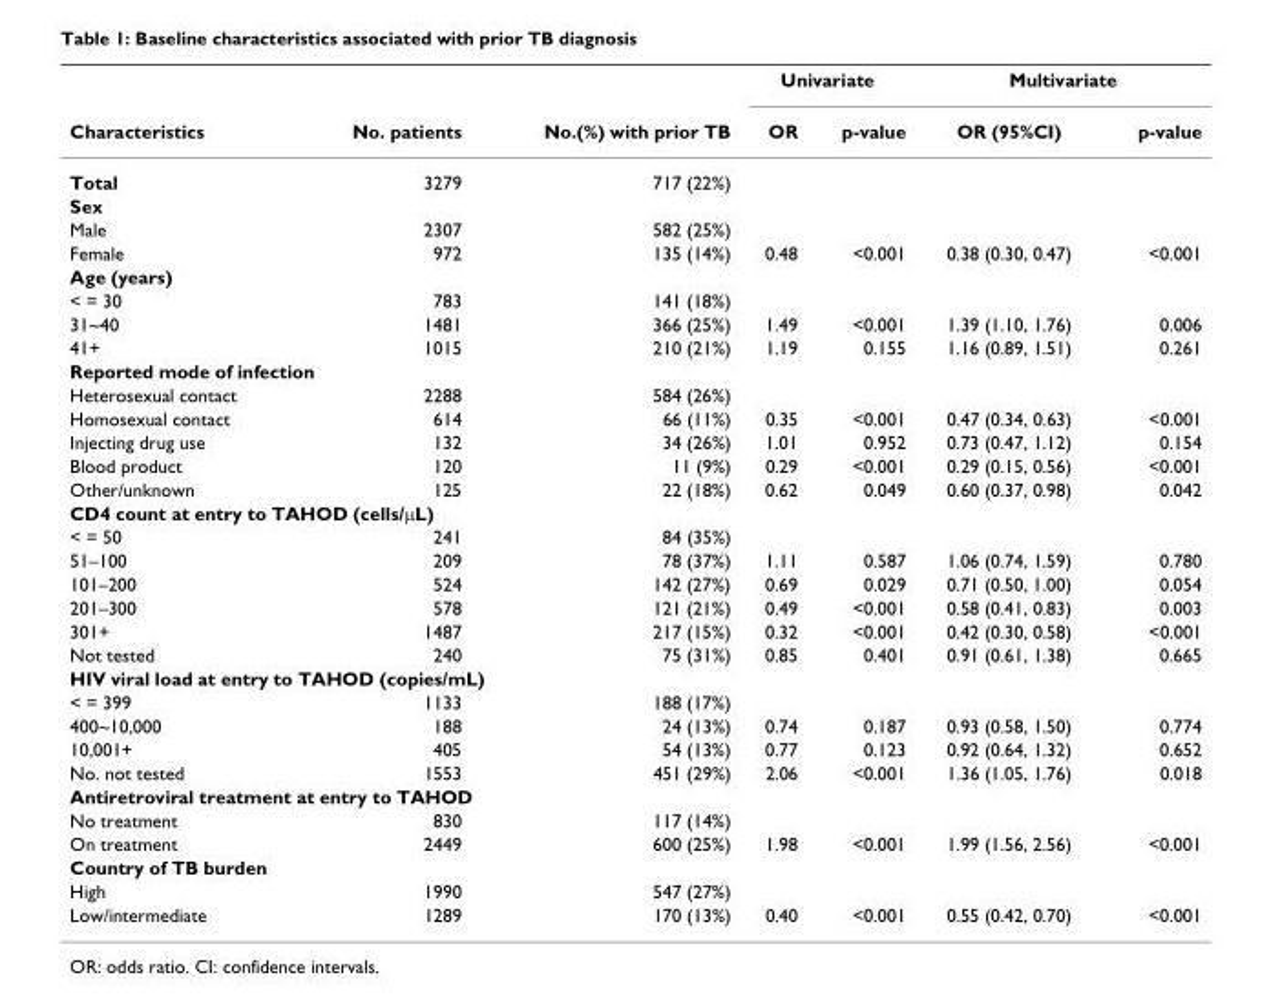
<table><thead><tr><td rowspan="2">Characteristics</td><td rowspan="2">No. patients</td><td rowspan="2">No.(%) with prior TB</td><td colspan="2">Univariate</td><td colspan="2">Multivariate</td></tr><tr><td>OR</td><td>p-value</td><td>OR (95%CI)</td><td>p-value</td></tr></thead><tbody><tr><td>Total</td><td>3279</td><td>717 (22%)</td><td></td><td></td><td></td><td></td></tr><tr><td colspan="7">Sex</td></tr><tr><td>Male</td><td>2307</td><td>582 (25%)</td><td></td><td></td><td></td><td></td></tr><tr><td>Female</td><td>972</td><td>135 (14%)</td><td>0.48</td><td>&lt;0.001</td><td>0.38 (0.30, 0.47)</td><td>&lt;0.001</td></tr><tr><td colspan="7">Age (years)</td></tr><tr><td>&lt; = 30</td><td>783</td><td>141 (18%)</td><td></td><td></td><td></td><td></td></tr><tr><td>31~40</td><td>1481</td><td>366 (25%)</td><td>1.49</td><td>&lt;0.001</td><td>1.39 (1.10, 1.76)</td><td>0.006</td></tr><tr><td>41+</td><td>1015</td><td>210 (21%)</td><td>1.19</td><td>0.155</td><td>1.16 (0.89, 1.51)</td><td>0.261</td></tr><tr><td colspan="7">Reported mode of infection</td></tr><tr><td>Heterosexual contact</td><td>2288</td><td>584 (26%)</td><td></td><td></td><td></td><td></td></tr><tr><td>Homosexual contact</td><td>614</td><td>66 (11%)</td><td>0.35</td><td>&lt;0.001</td><td>0.47 (0.34, 0.63)</td><td>&lt;0.001</td></tr><tr><td>Injecting drug use</td><td>132</td><td>34 (26%)</td><td>1.01</td><td>0.952</td><td>0.73 (0.47, 1.12)</td><td>0.154</td></tr><tr><td>Blood product</td><td>120</td><td>11 (9%)</td><td>0.29</td><td>&lt;0.001</td><td>0.29 (0.15, 0.56)</td><td>&lt;0.001</td></tr><tr><td>Other/unknown</td><td>125</td><td>22 (18%)</td><td>0.62</td><td>0.049</td><td>0.60 (0.37, 0.98)</td><td>0.042</td></tr><tr><td colspan="7">CD4 count at entry to TAHOD (cells/μL)</td></tr><tr><td>&lt; = 50</td><td>241</td><td>84 (35%)</td><td></td><td></td><td></td><td></td></tr><tr><td>51–100</td><td>209</td><td>78 (37%)</td><td>1.11</td><td>0.587</td><td>1.06 (0.74, 1.59)</td><td>0.780</td></tr><tr><td>101–200</td><td>524</td><td>142 (27%)</td><td>0.69</td><td>0.029</td><td>0.71 (0.50, 1.00)</td><td>0.054</td></tr><tr><td>201–300</td><td>578</td><td>121 (21%)</td><td>0.49</td><td>&lt;0.001</td><td>0.58 (0.41, 0.83)</td><td>0.003</td></tr><tr><td>301+</td><td>1487</td><td>217 (15%)</td><td>0.32</td><td>&lt;0.001</td><td>0.42 (0.30, 0.58)</td><td>&lt;0.001</td></tr><tr><td>Not tested</td><td>240</td><td>75 (31%)</td><td>0.85</td><td>0.401</td><td>0.91 (0.61, 1.38)</td><td>0.665</td></tr><tr><td colspan="7">HIV viral load at entry to TAHOD (copies/mL)</td></tr><tr><td>&lt; = 399</td><td>1133</td><td>188 (17%)</td><td></td><td></td><td></td><td></td></tr><tr><td>400~10,000</td><td>188</td><td>24 (13%)</td><td>0.74</td><td>0.187</td><td>0.93 (0.58, 1.50)</td><td>0.774</td></tr><tr><td>10,001+</td><td>405</td><td>54 (13%)</td><td>0.77</td><td>0.123</td><td>0.92 (0.64, 1.32)</td><td>0.652</td></tr><tr><td>No. not tested</td><td>1553</td><td>451 (29%)</td><td>2.06</td><td>&lt;0.001</td><td>1.36 (1.05, 1.76)</td><td>0.018</td></tr><tr><td colspan="7">Antiretroviral treatment at entry to TAHOD</td></tr><tr><td>No treatment</td><td>830</td><td>117 (14%)</td><td></td><td></td><td></td><td></td></tr><tr><td>On treatment</td><td>2449</td><td>600 (25%)</td><td>1.98</td><td>&lt;0.001</td><td>1.99 (1.56, 2.56)</td><td>&lt;0.001</td></tr><tr><td colspan="7">Country of TB burden</td></tr><tr><td>High</td><td>1990</td><td>547 (27%)</td><td></td><td></td><td></td><td></td></tr><tr><td>Low/intermediate</td><td>1289</td><td>170 (13%)</td><td>0.40</td><td>&lt;0.001</td><td>0.55 (0.42, 0.70)</td><td>&lt;0.001</td></tr></tbody></table>